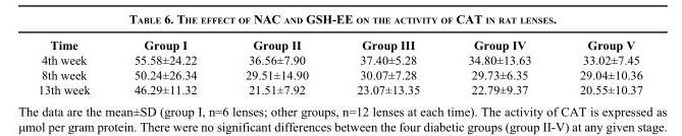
<table><tbody><tr><td>Time</td><td>Group I</td><td>Group II</td><td>Group III</td><td>Group IV</td><td>Group V</td></tr><tr><td>4th week</td><td>55.58±24.22</td><td>36.56±7.90</td><td>37.40±5.28</td><td>34.80±13.63</td><td>33.02±7.45</td></tr><tr><td>8th week</td><td>50.24±26.34</td><td>29.51±14.90</td><td>30.07±7.28</td><td>29.73±6.35</td><td>29.04±10.36</td></tr><tr><td>13th week</td><td>46.29±11.32</td><td>21.51±7.92</td><td>23.07±13.35</td><td>22.79±9.37</td><td>20.55±10.37</td></tr></tbody></table>